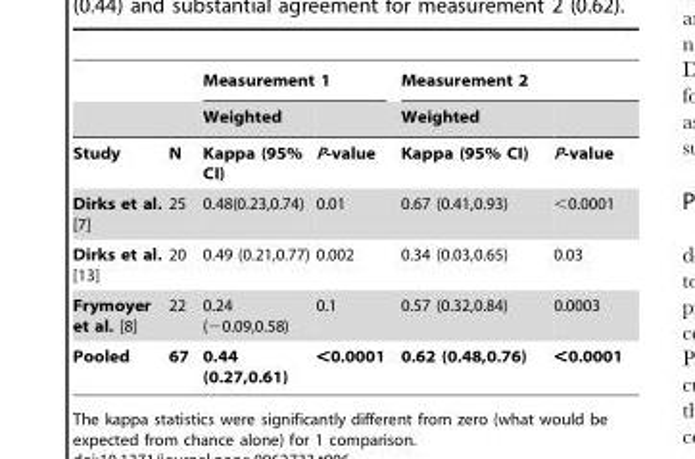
<table><thead><tr><td rowspan="2"></td><td rowspan="2"></td><td colspan="2">Measurement 1</td><td colspan="2">Measurement 2</td></tr><tr><td>Weighted</td><td></td><td>Weighted</td><td></td></tr></thead><tbody><tr><td>Study</td><td>N</td><td>Kappa (95% CI)</td><td>P-value</td><td>Kappa (95% CI)</td><td>P-value</td></tr><tr><td>Dirks et al. [7]</td><td>25</td><td>0.48(0.23,0.74)</td><td>0.01</td><td>0.67 (0.41,0.93)</td><td>&lt;0.0001</td></tr><tr><td>Dirks et al. [13]</td><td>20</td><td>0.49 (0.21,0.77)</td><td>0.002</td><td>0.34 (0.03,0.65)</td><td>0.03</td></tr><tr><td>Frymoyer et al. [8]</td><td>22</td><td>0.24 (−0.09,0.58)</td><td>0.1</td><td>0.57 (0.32,0.84)</td><td>0.0003</td></tr><tr><td>Pooled</td><td>67</td><td>0.44 (0.27,0.61)</td><td>&lt;0.0001</td><td>0.62 (0.48,0.76)</td><td>&lt;0.0001</td></tr></tbody></table>